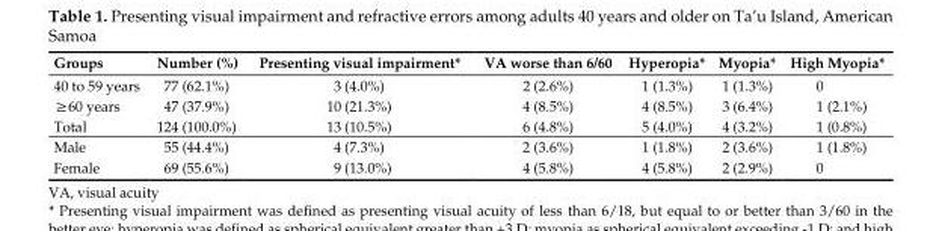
<table><thead><tr><td>Groups</td><td>Number (%)</td><td>Presenting visual impairment*</td><td>VA worse than 6/60</td><td>Hyperopia*</td><td>Myopia*</td><td>High Myopia*</td></tr></thead><tbody><tr><td>40 to 59 years</td><td>77 (62.1%)</td><td>3 (4.0%)</td><td>2 (2.6%)</td><td>1 (1.3%)</td><td>1 (1.3%)</td><td>0</td></tr><tr><td>≥60 years</td><td>47 (37.9%)</td><td>10 (21.3%)</td><td>4 (8.5%)</td><td>4 (8.5%)</td><td>3 (6.4%)</td><td>1 (2.1%)</td></tr><tr><td>Total</td><td>124 (100.0%)</td><td>13 (10.5%)</td><td>6 (4.8%)</td><td>5 (4.0%)</td><td>4 (3.2%)</td><td>1 (0.8%)</td></tr><tr><td>Male</td><td>55 (44.4%)</td><td>4 (7.3%)</td><td>2 (3.6%)</td><td>1 (1.8%)</td><td>2 (3.6%)</td><td>1 (1.8%)</td></tr><tr><td>Female</td><td>69 (55.6%)</td><td>9 (13.0%)</td><td>4 (5.8%)</td><td>4 (5.8%)</td><td>2 (2.9%)</td><td>0</td></tr></tbody></table>